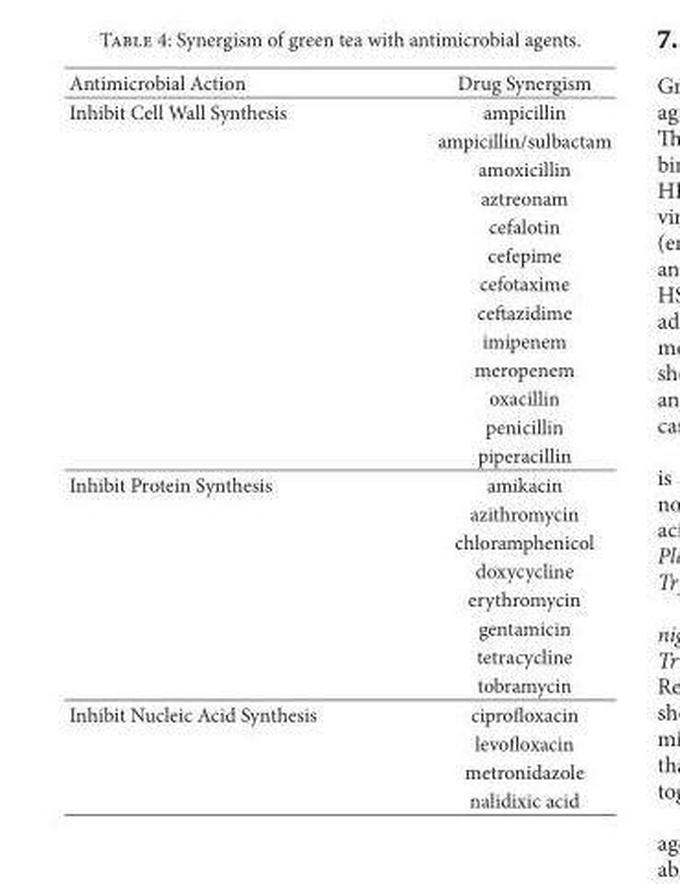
<table><thead><tr><td>Antimicrobial Action</td><td>Drug Synergism</td></tr></thead><tbody><tr><td rowspan="13">Inhibit Cell Wall Synthesis</td><td>ampicillin</td></tr><tr><td>ampicillin/sulbactam</td></tr><tr><td>amoxicillin</td></tr><tr><td>aztreonam</td></tr><tr><td>cefalotin</td></tr><tr><td>cefepime</td></tr><tr><td>cefotaxime</td></tr><tr><td>ceftazidime</td></tr><tr><td>imipenem</td></tr><tr><td>meropenem</td></tr><tr><td>oxacillin</td></tr><tr><td>penicillin</td></tr><tr><td>piperacillin</td></tr><tr><td rowspan="8">Inhibit Protein Synthesis</td><td>amikacin</td></tr><tr><td>azithromycin</td></tr><tr><td>chloramphenicol</td></tr><tr><td>doxycycline</td></tr><tr><td>erythromycin</td></tr><tr><td>gentamicin</td></tr><tr><td>tetracycline</td></tr><tr><td>tobramycin</td></tr><tr><td rowspan="4">Inhibit Nucleic Acid Synthesis</td><td>ciprofloxacin</td></tr><tr><td>levofloxacin</td></tr><tr><td>metronidazole</td></tr><tr><td>nalidixic acid</td></tr></tbody></table>